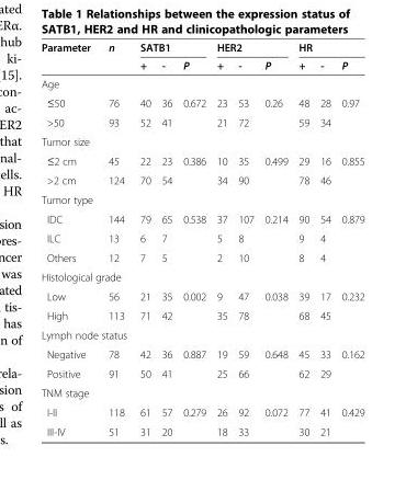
<table><thead><tr><td rowspan="2">Parameter</td><td rowspan="2">n</td><td colspan="3">SATB1</td><td colspan="3">HER2</td><td colspan="3">HR</td></tr><tr><td>+</td><td>-</td><td>P</td><td>+</td><td>-</td><td>P</td><td>+</td><td>-</td><td>P</td></tr></thead><tbody><tr><td colspan="11">Age</td></tr><tr><td>≤50</td><td>76</td><td>40</td><td>36</td><td rowspan="2">0.672</td><td>23</td><td>53</td><td rowspan="2">0.26</td><td>48</td><td>28</td><td rowspan="2">0.97</td></tr><tr><td>&gt;50</td><td>93</td><td>52</td><td>41</td><td>21</td><td>72</td><td>59</td><td>34</td></tr><tr><td colspan="11">Tumor size</td></tr><tr><td>≤2 cm</td><td>45</td><td>22</td><td>23</td><td rowspan="2">0.386</td><td>10</td><td>35</td><td rowspan="2">0.499</td><td>29</td><td>16</td><td rowspan="2">0.855</td></tr><tr><td>&gt;2 cm</td><td>124</td><td>70</td><td>54</td><td>34</td><td>90</td><td>78</td><td>46</td></tr><tr><td colspan="11">Tumor type</td></tr><tr><td>IDC</td><td>144</td><td>79</td><td>65</td><td rowspan="3">0.538</td><td>37</td><td>107</td><td rowspan="3">0.214</td><td>90</td><td>54</td><td rowspan="3">0.879</td></tr><tr><td>ILC</td><td>13</td><td>6</td><td>7</td><td>5</td><td>8</td><td>9</td><td>4</td></tr><tr><td>Others</td><td>12</td><td>7</td><td>5</td><td>2</td><td>10</td><td>8</td><td>4</td></tr><tr><td colspan="11">Histological grade</td></tr><tr><td>Low</td><td>56</td><td>21</td><td>35</td><td rowspan="2">0.002</td><td>9</td><td>47</td><td rowspan="2">0.038</td><td>39</td><td>17</td><td rowspan="2">0.232</td></tr><tr><td>High</td><td>113</td><td>71</td><td>42</td><td>35</td><td>78</td><td>68</td><td>45</td></tr><tr><td colspan="11">Lymph node status</td></tr><tr><td>Negative</td><td>78</td><td>42</td><td>36</td><td rowspan="2">0.887</td><td>19</td><td>59</td><td rowspan="2">0.648</td><td>45</td><td>33</td><td rowspan="2">0.162</td></tr><tr><td>Positive</td><td>91</td><td>50</td><td>41</td><td>25</td><td>66</td><td>62</td><td>29</td></tr><tr><td colspan="11">TNM stage</td></tr><tr><td>I-II</td><td>118</td><td>61</td><td>57</td><td rowspan="2">0.279</td><td>26</td><td>92</td><td rowspan="2">0.072</td><td>77</td><td>41</td><td rowspan="2">0.429</td></tr><tr><td>III-IV</td><td>51</td><td>31</td><td>20</td><td>18</td><td>33</td><td>30</td><td>21</td></tr></tbody></table>